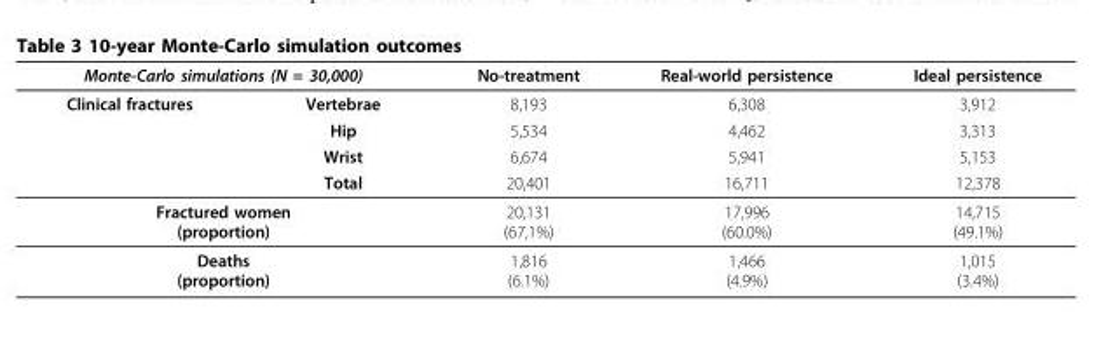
<table><thead><tr><td colspan="2">Monte-Carlo simulations (N = 30,000)</td><td rowspan="2">No-treatment 8,193</td><td rowspan="2">Real-world persistence 6,308</td><td rowspan="2">Ideal persistence 3,912</td></tr><tr><td>Clinical fractures</td><td>Vertebrae</td></tr></thead><tbody><tr><td></td><td>Hip</td><td>5,534</td><td>4,462</td><td>3,313</td></tr><tr><td></td><td>Wrist</td><td>6,674</td><td>5,941</td><td>5,153</td></tr><tr><td></td><td>Total</td><td>20,401</td><td>16,711</td><td>12,378</td></tr><tr><td colspan="2">Fractured women (proportion)</td><td>20,131 (67,1%)</td><td>17,996 (60.0%)</td><td>14,715 (49.1%)</td></tr><tr><td colspan="2">Deaths (proportion)</td><td>1,816 (6.1%)</td><td>1,466 (4.9%)</td><td>1,015 (3.4%)</td></tr></tbody></table>